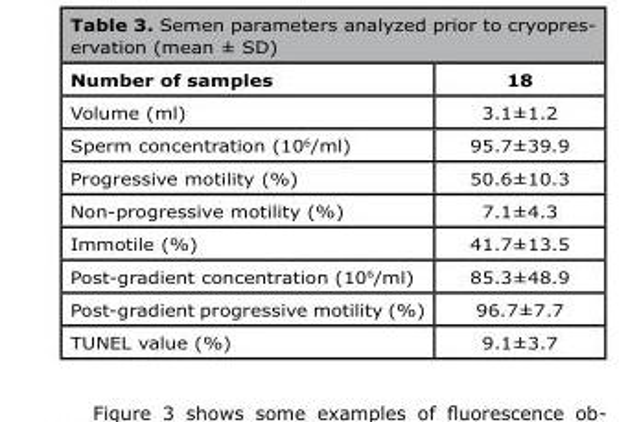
<table><thead><tr><td>Number of samples</td><td>18</td></tr></thead><tbody><tr><td>Volume (ml)</td><td>3.1±1.2</td></tr><tr><td>Sperm concentration (10<sup>6</sup>/ml)</td><td>95.7±39.9</td></tr><tr><td>Progressive motility (%)</td><td>50.6±10.3</td></tr><tr><td>Non-progressive motility (%)</td><td>7.1±4.3</td></tr><tr><td>Immotile (%)</td><td>41.7±13.5</td></tr><tr><td>Post-gradient concentration (10<sup>6</sup>/ml)</td><td>85.3±48.9</td></tr><tr><td>Post-gradient progressive motility (%)</td><td>96.7±7.7</td></tr><tr><td>TUNEL value (%)</td><td>9.1±3.7</td></tr></tbody></table>